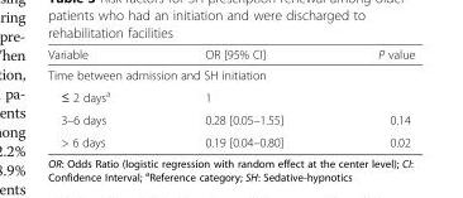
<table><thead><tr><td>Variable</td><td>OR [95% CI]</td><td>P value</td></tr></thead><tbody><tr><td colspan="3">Time between admission and SH initiation</td></tr><tr><td>≤ 2 days<sup>a</sup></td><td>1</td><td></td></tr><tr><td>3–6 days</td><td>0.28 [0.05–1.55]</td><td>0.14</td></tr><tr><td>&gt; 6 days</td><td>0.19 [0.04–0.80]</td><td>0.02</td></tr></tbody></table>